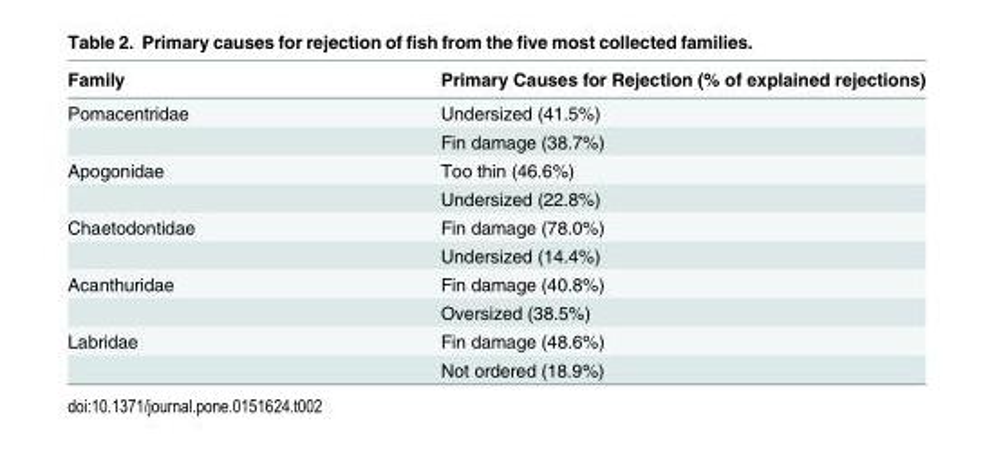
<table><thead><tr><td>Family</td><td>Primary Causes for Rejection (% of explained rejections)</td></tr></thead><tbody><tr><td rowspan="2">Pomacentridae</td><td>Undersized (41.5%)</td></tr><tr><td>Fin damage (38.7%)</td></tr><tr><td rowspan="2">Apogonidae</td><td>Too thin (46.6%)</td></tr><tr><td>Undersized (22.8%)</td></tr><tr><td rowspan="2">Chaetodontidae</td><td>Fin damage (78.0%)</td></tr><tr><td>Undersized (14.4%)</td></tr><tr><td rowspan="2">Acanthuridae</td><td>Fin damage (40.8%)</td></tr><tr><td>Oversized (38.5%)</td></tr><tr><td rowspan="2">Labridae</td><td>Fin damage (48.6%)</td></tr><tr><td>Not ordered (18.9%)</td></tr></tbody></table>